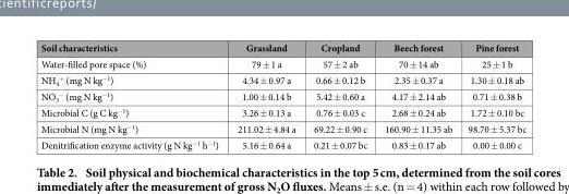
<table><thead><tr><td>Soil characteristics</td><td>Grassland</td><td>Cropland</td><td>Beech forest</td><td>Pine forest</td></tr></thead><tbody><tr><td>Water-filled pore space (%)</td><td>79 ± 1 a</td><td>57 ± 2 ab</td><td>70 ± 14 ab</td><td>25 ± 1 b</td></tr><tr><td>NH<sub>4</sub> <sup>+</sup> (mg N kg<sup>−1</sup>)</td><td>4.34 ± 0.97 a</td><td>0.66 ± 0.12 b</td><td>2.35 ± 0.37 a</td><td>1.30 ± 0.18 ab</td></tr><tr><td>NO<sub>3</sub> <sup>−</sup> (mg N kg<sup>−1</sup>)</td><td>1.00 ± 0.14 b</td><td>5.42 ± 0.60 a</td><td>4.17 ± 2.14 ab</td><td>0.71 ± 0.38 b</td></tr><tr><td>Microbial C (g C kg<sup>−1</sup>)</td><td>3.26 ± 0.13 a</td><td>0.76 ± 0.03 c</td><td>2.68 ± 0.24 ab</td><td>1.72 ± 0.10 bc</td></tr><tr><td>Microbial N (mg N kg<sup>−1</sup>)</td><td>211.02 ± 4.84 a</td><td>69.22 ± 0.90 c</td><td>160.90 ± 11.35 ab</td><td>98.70 ± 5.37 bc</td></tr><tr><td>Denitrification enzyme activity (g N kg<sup>−1</sup> h<sup>−1</sup>)</td><td>5.16 ± 0.64 a</td><td>0.21 ± 0.07 bc</td><td>0.83 ± 0.17 ab</td><td>0.00 ± 0.00 c</td></tr></tbody></table>